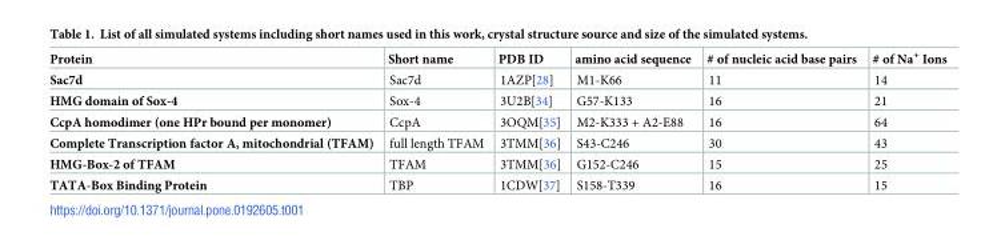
<table><thead><tr><td>Protein</td><td>Short name</td><td>PDB ID</td><td>amino acid sequence</td><td># of nucleic acid base pairs</td><td># of Na<sup>+</sup> Ions</td></tr></thead><tbody><tr><td>Sac7d</td><td>Sac7d</td><td>1AZP[28]</td><td>M1-K66</td><td>11</td><td>14</td></tr><tr><td>HMG domain of Sox-4</td><td>Sox-4</td><td>3U2B[34]</td><td>G57-K133</td><td>16</td><td>21</td></tr><tr><td>CcpA homodimer (one HPr bound per monomer)</td><td>CcpA</td><td>3OQM[35]</td><td>M2-K333 + A2-E88</td><td>16</td><td>64</td></tr><tr><td>Complete Transcription factor A, mitochondrial (TFAM)</td><td>full length TFAM</td><td>3TMM[36]</td><td>S43-C246</td><td>30</td><td>43</td></tr><tr><td>HMG-Box-2 of TFAM</td><td>TFAM</td><td>3TMM[36]</td><td>G152-C246</td><td>15</td><td>25</td></tr><tr><td>TATA-Box Binding Protein</td><td>TBP</td><td>1CDW[37]</td><td>S158-T339</td><td>16</td><td>15</td></tr></tbody></table>